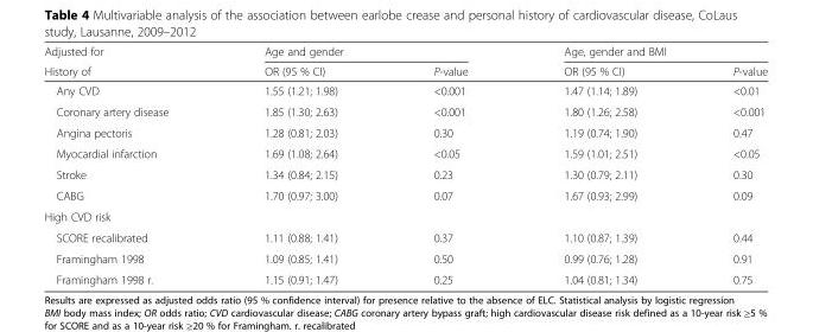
<table><thead><tr><td rowspan="2">Adjusted for History of</td><td colspan="2">Age and gender</td><td colspan="2">Age, gender and BMI</td></tr><tr><td>OR (95 % CI)</td><td>P-value</td><td>OR (95 % CI)</td><td>P-value</td></tr></thead><tbody><tr><td>Any CVD</td><td>1.55 (1.21; 1.98)</td><td>&lt;0.001</td><td>1.47 (1.14; 1.89)</td><td>&lt;0.01</td></tr><tr><td>Coronary artery disease</td><td>1.85 (1.30; 2.63)</td><td>&lt;0.001</td><td>1.80 (1.26; 2.58)</td><td>&lt;0.001</td></tr><tr><td>Angina pectoris</td><td>1.28 (0.81; 2.03)</td><td>0.30</td><td>1.19 (0.74; 1.90)</td><td>0.47</td></tr><tr><td>Myocardial infarction</td><td>1.69 (1.08; 2.64)</td><td>&lt;0.05</td><td>1.59 (1.01; 2.51)</td><td>&lt;0.05</td></tr><tr><td>Stroke</td><td>1.34 (0.84; 2.15)</td><td>0.23</td><td>1.30 (0.79; 2.11)</td><td>0.30</td></tr><tr><td>CABG</td><td>1.70 (0.97; 3.00)</td><td>0.07</td><td>1.67 (0.93; 2.99)</td><td>0.09</td></tr><tr><td colspan="5">High CVD risk</td></tr><tr><td>SCORE recalibrated</td><td>1.11 (0.88; 1.41)</td><td>0.37</td><td>1.10 (0.87; 1.39)</td><td>0.44</td></tr><tr><td>Framingham 1998</td><td>1.09 (0.85; 1.41)</td><td>0.50</td><td>0.99 (0.76; 1.28)</td><td>0.91</td></tr><tr><td>Framingham 1998 r.</td><td>1.15 (0.91; 1.47)</td><td>0.25</td><td>1.04 (0.81; 1.34)</td><td>0.75</td></tr></tbody></table>